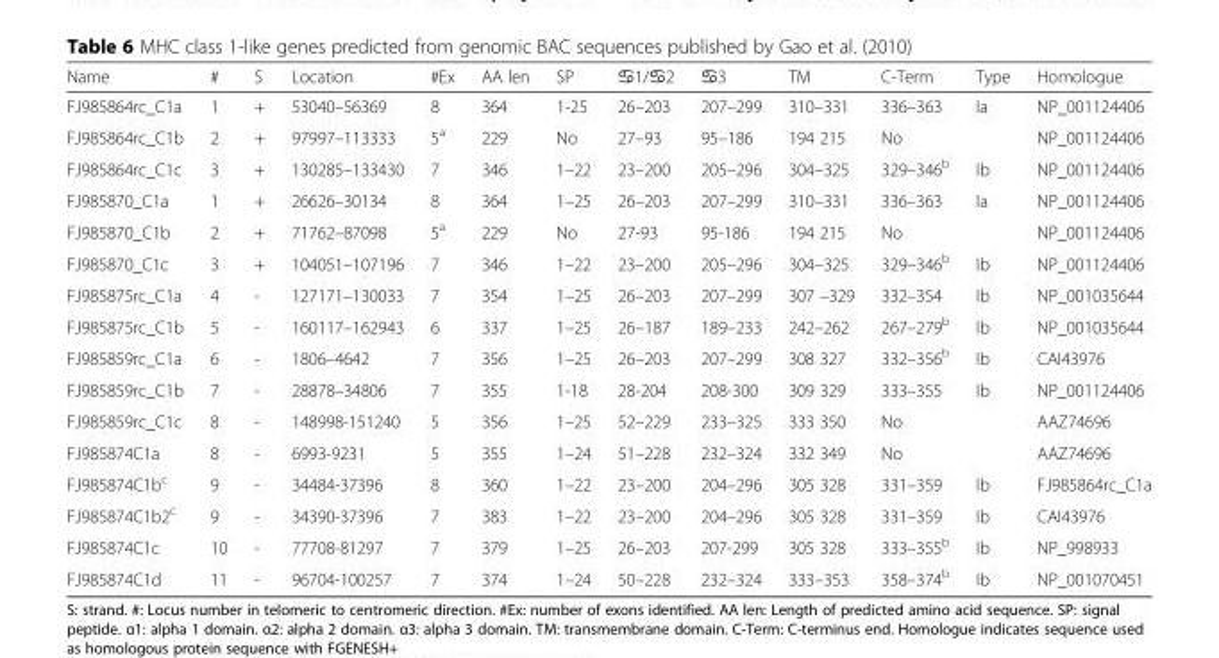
<table><thead><tr><td>Name</td><td>#</td><td>S</td><td>Location</td><td>#Ex</td><td>AA len</td><td>SP</td><td>♋1/♋2</td><td>♋3</td><td>TM</td><td>C-Term</td><td>Type</td><td>Homologue</td></tr></thead><tbody><tr><td>FJ985864rc_C1a</td><td>1</td><td>+</td><td>53040–56369</td><td>8</td><td>364</td><td>1-25</td><td>26–203</td><td>207–299</td><td>310–331</td><td>336–363</td><td>Ia</td><td>NP_001124406</td></tr><tr><td>FJ985864rc_C1b</td><td>2</td><td>+</td><td>97997–113333</td><td>5<sup>a</sup></td><td>229</td><td>No</td><td>27–93</td><td>95–186</td><td>194 215</td><td>No</td><td></td><td>NP_001124406</td></tr><tr><td>FJ985864rc_C1c</td><td>3</td><td>+</td><td>130285–133430</td><td>7</td><td>346</td><td>1–22</td><td>23–200</td><td>205–296</td><td>304–325</td><td>329–346<sup>b</sup></td><td>Ib</td><td>NP_001124406</td></tr><tr><td>FJ985870_C1a</td><td>1</td><td>+</td><td>26626–30134</td><td>8</td><td>364</td><td>1–25</td><td>26–203</td><td>207–299</td><td>310–331</td><td>336–363</td><td>Ia</td><td>NP_001124406</td></tr><tr><td>FJ985870_C1b</td><td>2</td><td>+</td><td>71762–87098</td><td>5<sup>a</sup></td><td>229</td><td>No</td><td>27-93</td><td>95-186</td><td>194 215</td><td>No</td><td></td><td>NP_001124406</td></tr><tr><td>FJ985870_C1c</td><td>3</td><td>+</td><td>104051–107196</td><td>7</td><td>346</td><td>1–22</td><td>23–200</td><td>205–296</td><td>304–325</td><td>329–346<sup>b</sup></td><td>Ib</td><td>NP_001124406</td></tr><tr><td>FJ985875rc_C1a</td><td>4</td><td>-</td><td>127171–130033</td><td>7</td><td>354</td><td>1–25</td><td>26–203</td><td>207–299</td><td>307 –329</td><td>332–354</td><td>Ib</td><td>NP_001035644</td></tr><tr><td>FJ985875rc_C1b</td><td>5</td><td>-</td><td>160117–162943</td><td>6</td><td>337</td><td>1–25</td><td>26–187</td><td>189–233</td><td>242–262</td><td>267–279<sup>b</sup></td><td>Ib</td><td>NP_001035644</td></tr><tr><td>FJ985859rc_C1a</td><td>6</td><td>-</td><td>1806–4642</td><td>7</td><td>356</td><td>1–25</td><td>26–203</td><td>207–299</td><td>308 327</td><td>332–356<sup>b</sup></td><td>Ib</td><td>CAI43976</td></tr><tr><td>FJ985859rc_C1b</td><td>7</td><td>-</td><td>28878–34806</td><td>7</td><td>355</td><td>1-18</td><td>28-204</td><td>208-300</td><td>309 329</td><td>333–355</td><td>Ib</td><td>NP_001124406</td></tr><tr><td>FJ985859rc_C1c</td><td>8</td><td>-</td><td>148998-151240</td><td>5</td><td>356</td><td>1–25</td><td>52–229</td><td>233–325</td><td>333 350</td><td>No</td><td></td><td>AAZ74696</td></tr><tr><td>FJ985874C1a</td><td>8</td><td>-</td><td>6993-9231</td><td>5</td><td>355</td><td>1–24</td><td>51–228</td><td>232–324</td><td>332 349</td><td>No</td><td></td><td>AAZ74696</td></tr><tr><td>FJ985874C1b<sup>c</sup></td><td>9</td><td>-</td><td>34484-37396</td><td>8</td><td>360</td><td>1–22</td><td>23–200</td><td>204–296</td><td>305 328</td><td>331–359</td><td>Ib</td><td>FJ985864rc_C1a</td></tr><tr><td>FJ985874C1b2<sup>c</sup></td><td>9</td><td>-</td><td>34390-37396</td><td>7</td><td>383</td><td>1–22</td><td>23–200</td><td>204–296</td><td>305 328</td><td>331–359</td><td>Ib</td><td>CAI43976</td></tr><tr><td>FJ985874C1c</td><td>10</td><td>-</td><td>77708-81297</td><td>7</td><td>379</td><td>1–25</td><td>26–203</td><td>207-299</td><td>305 328</td><td>333–355<sup>b</sup></td><td>Ib</td><td>NP_998933</td></tr><tr><td>FJ985874C1d</td><td>11</td><td>-</td><td>96704-100257</td><td>7</td><td>374</td><td>1–24</td><td>50–228</td><td>232–324</td><td>333–353</td><td>358–374<sup>b</sup></td><td>Ib</td><td>NP_001070451</td></tr></tbody></table>